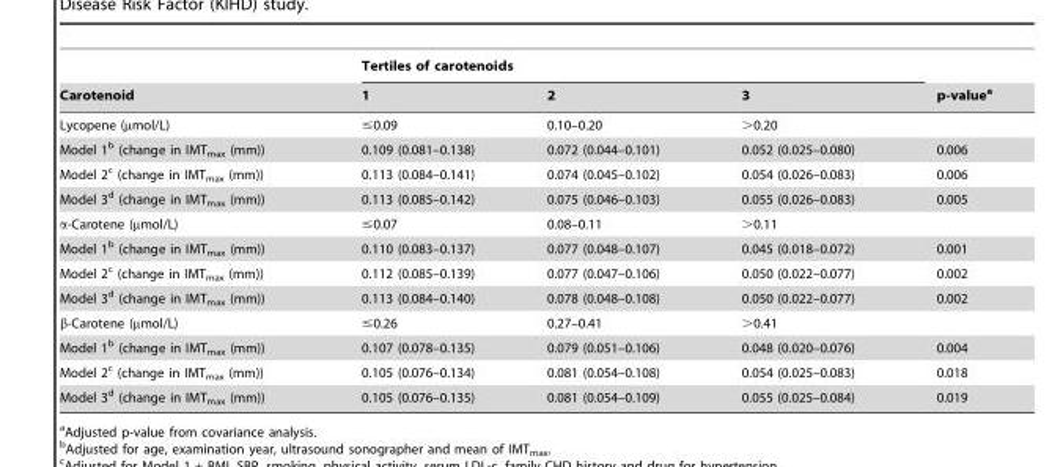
<table><thead><tr><td rowspan="2">Carotenoid</td><td colspan="3">Tertiles of carotenoids</td><td rowspan="2">p-value<sup>a</sup></td></tr><tr><td>1</td><td>2</td><td>3</td></tr></thead><tbody><tr><td>Lycopene (µmol/L)</td><td>≤0.09</td><td>0.10–0.20</td><td>&gt;0.20</td><td></td></tr><tr><td>Model 1<sup>b</sup> (change in IMT<sub>max</sub> (mm))</td><td>0.109 (0.081–0.138)</td><td>0.072 (0.044–0.101)</td><td>0.052 (0.025–0.080)</td><td>0.006</td></tr><tr><td>Model 2<sup>c</sup> (change in IMT<sub>max</sub> (mm))</td><td>0.113 (0.084–0.141)</td><td>0.074 (0.045–0.102)</td><td>0.054 (0.026–0.083)</td><td>0.006</td></tr><tr><td>Model 3<sup>d</sup> (change in IMT<sub>max</sub> (mm))</td><td>0.113 (0.085–0.142)</td><td>0.075 (0.046–0.103)</td><td>0.055 (0.026–0.083)</td><td>0.005</td></tr><tr><td>α-Carotene (µmol/L)</td><td>≤0.07</td><td>0.08–0.11</td><td>&gt;0.11</td><td></td></tr><tr><td>Model 1<sup>b</sup> (change in IMT<sub>max</sub> (mm))</td><td>0.110 (0.083–0.137)</td><td>0.077 (0.048–0.107)</td><td>0.045 (0.018–0.072)</td><td>0.001</td></tr><tr><td>Model 2<sup>c</sup> (change in IMT<sub>max</sub> (mm))</td><td>0.112 (0.085–0.139)</td><td>0.077 (0.047–0.106)</td><td>0.050 (0.022–0.077)</td><td>0.002</td></tr><tr><td>Model 3<sup>d</sup> (change in IMT<sub>max</sub> (mm))</td><td>0.113 (0.084–0.140)</td><td>0.078 (0.048–0.108)</td><td>0.050 (0.022–0.077)</td><td>0.002</td></tr><tr><td>β-Carotene (µmol/L)</td><td>≤0.26</td><td>0.27–0.41</td><td>&gt;0.41</td><td></td></tr><tr><td>Model 1<sup>b</sup> (change in IMT<sub>max</sub> (mm))</td><td>0.107 (0.078–0.135)</td><td>0.079 (0.051–0.106)</td><td>0.048 (0.020–0.076)</td><td>0.004</td></tr><tr><td>Model 2<sup>c</sup> (change in IMT<sub>max</sub> (mm))</td><td>0.105 (0.076–0.134)</td><td>0.081 (0.054–0.108)</td><td>0.054 (0.025–0.083)</td><td>0.018</td></tr><tr><td>Model 3<sup>d</sup> (change in IMT<sub>max</sub> (mm))</td><td>0.105 (0.076–0.135)</td><td>0.081 (0.054–0.109)</td><td>0.055 (0.025–0.084)</td><td>0.019</td></tr></tbody></table>